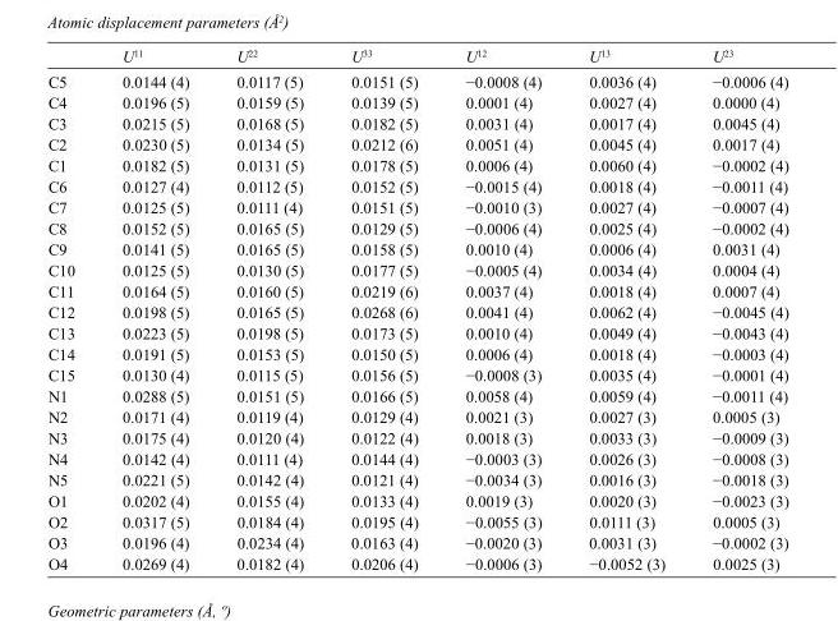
<table><thead><tr><td></td><td>U<sup>11</sup></td><td>U<sup>22</sup></td><td>U<sup>33</sup></td><td>U<sup>12</sup></td><td>U<sup>13</sup></td><td>U<sup>23</sup></td></tr></thead><tbody><tr><td>C5</td><td>0.0144 (4)</td><td>0.0117 (5)</td><td>0.0151 (5)</td><td>−0.0008 (4)</td><td>0.0036 (4)</td><td>−0.0006 (4)</td></tr><tr><td>C4</td><td>0.0196 (5)</td><td>0.0159 (5)</td><td>0.0139 (5)</td><td>0.0001 (4)</td><td>0.0027 (4)</td><td>0.0000 (4)</td></tr><tr><td>C3</td><td>0.0215 (5)</td><td>0.0168 (5)</td><td>0.0182 (5)</td><td>0.0031 (4)</td><td>0.0017 (4)</td><td>0.0045 (4)</td></tr><tr><td>C2</td><td>0.0230 (5)</td><td>0.0134 (5)</td><td>0.0212 (6)</td><td>0.0051 (4)</td><td>0.0045 (4)</td><td>0.0017 (4)</td></tr><tr><td>C1</td><td>0.0182 (5)</td><td>0.0131 (5)</td><td>0.0178 (5)</td><td>0.0006 (4)</td><td>0.0060 (4)</td><td>−0.0002 (4)</td></tr><tr><td>C6</td><td>0.0127 (4)</td><td>0.0112 (5)</td><td>0.0152 (5)</td><td>−0.0015 (4)</td><td>0.0018 (4)</td><td>−0.0011 (4)</td></tr><tr><td>C7</td><td>0.0125 (5)</td><td>0.0111 (4)</td><td>0.0151 (5)</td><td>−0.0010 (3)</td><td>0.0027 (4)</td><td>−0.0007 (4)</td></tr><tr><td>C8</td><td>0.0152 (5)</td><td>0.0165 (5)</td><td>0.0129 (5)</td><td>−0.0006 (4)</td><td>0.0025 (4)</td><td>−0.0002 (4)</td></tr><tr><td>C9</td><td>0.0141 (5)</td><td>0.0165 (5)</td><td>0.0158 (5)</td><td>0.0010 (4)</td><td>0.0006 (4)</td><td>0.0031 (4)</td></tr><tr><td>C10</td><td>0.0125 (5)</td><td>0.0130 (5)</td><td>0.0177 (5)</td><td>−0.0005 (4)</td><td>0.0034 (4)</td><td>0.0004 (4)</td></tr><tr><td>C11</td><td>0.0164 (5)</td><td>0.0160 (5)</td><td>0.0219 (6)</td><td>0.0037 (4)</td><td>0.0018 (4)</td><td>0.0007 (4)</td></tr><tr><td>C12</td><td>0.0198 (5)</td><td>0.0165 (5)</td><td>0.0268 (6)</td><td>0.0041 (4)</td><td>0.0062 (4)</td><td>−0.0045 (4)</td></tr><tr><td>C13</td><td>0.0223 (5)</td><td>0.0198 (5)</td><td>0.0173 (5)</td><td>0.0010 (4)</td><td>0.0049 (4)</td><td>−0.0043 (4)</td></tr><tr><td>C14</td><td>0.0191 (5)</td><td>0.0153 (5)</td><td>0.0150 (5)</td><td>0.0006 (4)</td><td>0.0018 (4)</td><td>−0.0003 (4)</td></tr><tr><td>C15</td><td>0.0130 (4)</td><td>0.0115 (5)</td><td>0.0156 (5)</td><td>−0.0008 (3)</td><td>0.0035 (4)</td><td>−0.0001 (4)</td></tr><tr><td>N1</td><td>0.0288 (5)</td><td>0.0151 (5)</td><td>0.0166 (5)</td><td>0.0058 (4)</td><td>0.0059 (4)</td><td>−0.0011 (4)</td></tr><tr><td>N2</td><td>0.0171 (4)</td><td>0.0119 (4)</td><td>0.0129 (4)</td><td>0.0021 (3)</td><td>0.0027 (3)</td><td>0.0005 (3)</td></tr><tr><td>N3</td><td>0.0175 (4)</td><td>0.0120 (4)</td><td>0.0122 (4)</td><td>0.0018 (3)</td><td>0.0033 (3)</td><td>−0.0009 (3)</td></tr><tr><td>N4</td><td>0.0142 (4)</td><td>0.0111 (4)</td><td>0.0144 (4)</td><td>−0.0003 (3)</td><td>0.0026 (3)</td><td>−0.0008 (3)</td></tr><tr><td>N5</td><td>0.0221 (5)</td><td>0.0142 (4)</td><td>0.0121 (4)</td><td>−0.0034 (3)</td><td>0.0016 (3)</td><td>−0.0018 (3)</td></tr><tr><td>O1</td><td>0.0202 (4)</td><td>0.0155 (4)</td><td>0.0133 (4)</td><td>0.0019 (3)</td><td>0.0020 (3)</td><td>−0.0023 (3)</td></tr><tr><td>O2</td><td>0.0317 (5)</td><td>0.0184 (4)</td><td>0.0195 (4)</td><td>−0.0055 (3)</td><td>0.0111 (3)</td><td>0.0005 (3)</td></tr><tr><td>O3</td><td>0.0196 (4)</td><td>0.0234 (4)</td><td>0.0163 (4)</td><td>−0.0020 (3)</td><td>0.0031 (3)</td><td>−0.0002 (3)</td></tr><tr><td>O4</td><td>0.0269 (4)</td><td>0.0182 (4)</td><td>0.0206 (4)</td><td>−0.0006 (3)</td><td>−0.0052 (3)</td><td>0.0025 (3)</td></tr></tbody></table>